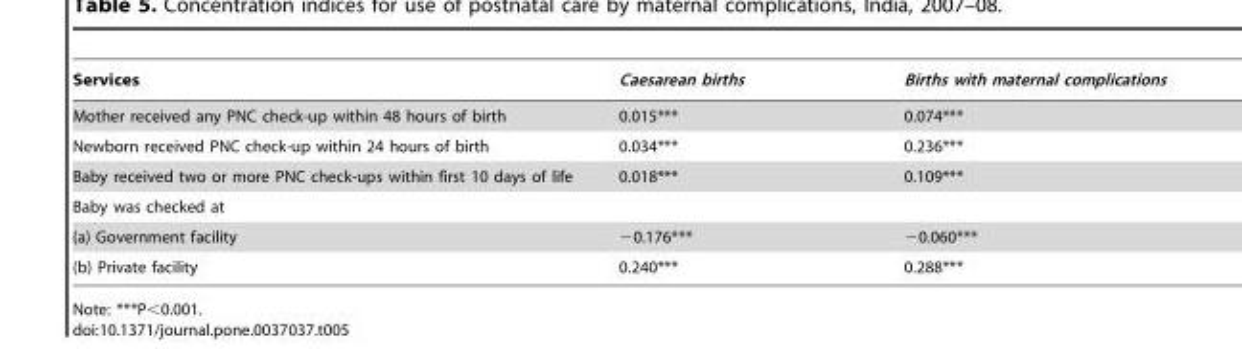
<table><thead><tr><td>Services</td><td>Caesarean births</td><td>Births with maternal complications</td></tr></thead><tbody><tr><td>Mother received any PNC check-up within 48 hours of birth</td><td>0.015***</td><td>0.074***</td></tr><tr><td>Newborn received PNC check-up within 24 hours of birth</td><td>0.034***</td><td>0.236***</td></tr><tr><td>Baby received two or more PNC check-ups within first 10 days of life</td><td>0.018***</td><td>0.109***</td></tr><tr><td colspan="3">Baby was checked at</td></tr><tr><td>(a) Government facility</td><td>−0.176***</td><td>−0.060***</td></tr><tr><td>(b) Private facility</td><td>0.240***</td><td>0.288***</td></tr></tbody></table>